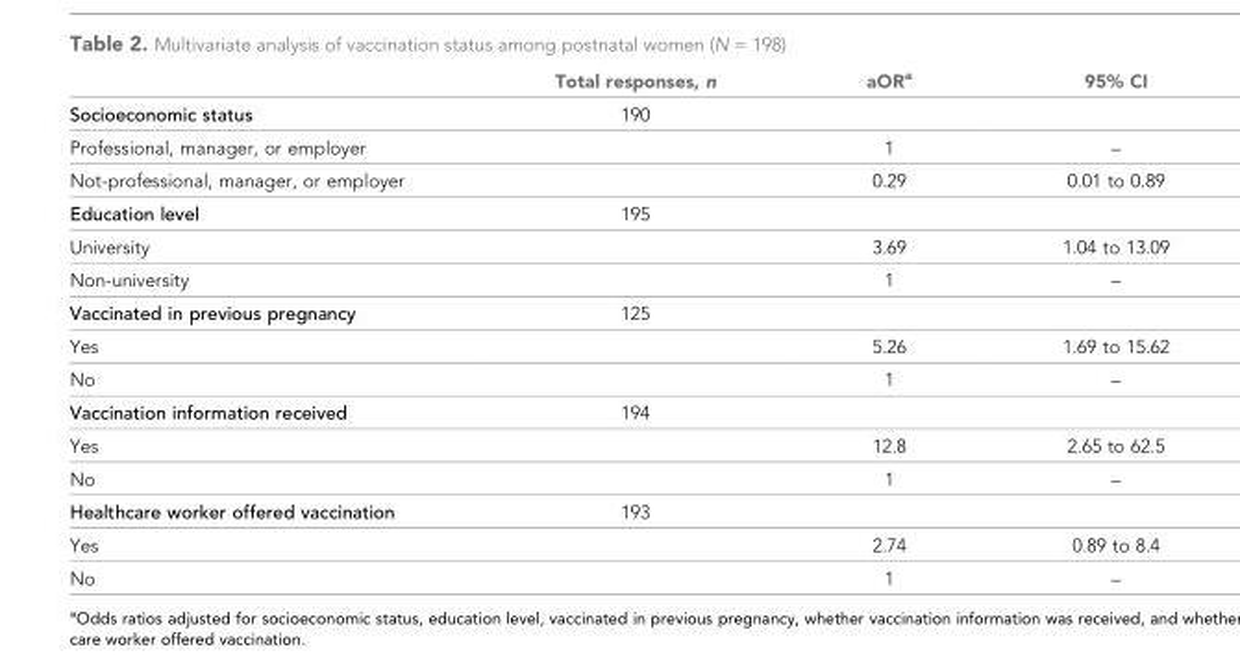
<table><thead><tr><td></td><td>Total responses, n</td><td>aOR<sup>a</sup></td><td>95% CI</td></tr></thead><tbody><tr><td>Socioeconomic status</td><td>190</td><td></td><td></td></tr><tr><td>Professional, manager, or employer</td><td></td><td>1</td><td>–</td></tr><tr><td>Not-professional, manager, or employer</td><td></td><td>0.29</td><td>0.01 to 0.89</td></tr><tr><td>Education level</td><td>195</td><td></td><td></td></tr><tr><td>University</td><td></td><td>3.69</td><td>1.04 to 13.09</td></tr><tr><td>Non-university</td><td></td><td>1</td><td>–</td></tr><tr><td>Vaccinated in previous pregnancy</td><td>125</td><td></td><td></td></tr><tr><td>Yes</td><td></td><td>5.26</td><td>1.69 to 15.62</td></tr><tr><td>No</td><td></td><td>1</td><td>–</td></tr><tr><td>Vaccination information received</td><td>194</td><td></td><td></td></tr><tr><td>Yes</td><td></td><td>12.8</td><td>2.65 to 62.5</td></tr><tr><td>No</td><td></td><td>1</td><td>–</td></tr><tr><td>Healthcare worker offered vaccination</td><td>193</td><td></td><td></td></tr><tr><td>Yes</td><td></td><td>2.74</td><td>0.89 to 8.4</td></tr><tr><td>No</td><td></td><td>1</td><td>–</td></tr></tbody></table>